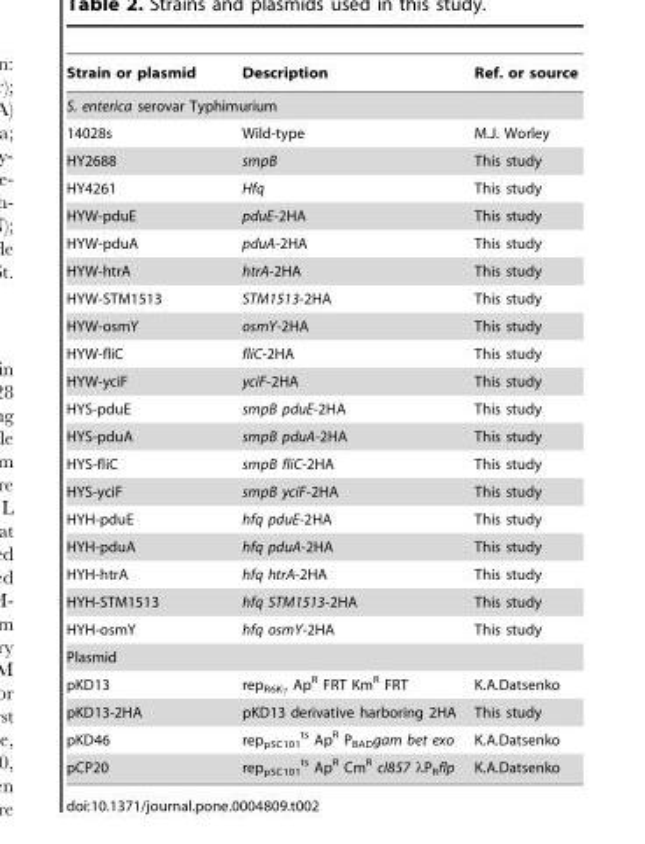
<table><thead><tr><td>Strain or plasmid</td><td>Description</td><td>Ref. or source</td></tr></thead><tbody><tr><td colspan="3">S. enterica serovar Typhimurium</td></tr><tr><td>14028s</td><td>Wild-type</td><td>M.J. Worley</td></tr><tr><td>HY2688</td><td>smpB</td><td>This study</td></tr><tr><td>HY4261</td><td>Hfq</td><td>This study</td></tr><tr><td>HYW-pduE</td><td>pduE-2HA</td><td>This study</td></tr><tr><td>HYW-pduA</td><td>pduA-2HA</td><td>This study</td></tr><tr><td>HYW-htrA</td><td>htrA-2HA</td><td>This study</td></tr><tr><td>HYW-STM1513</td><td>STM1513-2HA</td><td>This study</td></tr><tr><td>HYW-osmY</td><td>osmY-2HA</td><td>This study</td></tr><tr><td>HYW-fliC</td><td>fliC-2HA</td><td>This study</td></tr><tr><td>HYW-yciF</td><td>yciF-2HA</td><td>This study</td></tr><tr><td>HYS-pduE</td><td>smpB pduE-2HA</td><td>This study</td></tr><tr><td>HYS-pduA</td><td>smpB pduA-2HA</td><td>This study</td></tr><tr><td>HYS-fliC</td><td>smpB fliC-2HA</td><td>This study</td></tr><tr><td>HYS-yciF</td><td>smpB yciF-2HA</td><td>This study</td></tr><tr><td>HYH-pduE</td><td>hfq pduE-2HA</td><td>This study</td></tr><tr><td>HYH-pduA</td><td>hfq pduA-2HA</td><td>This study</td></tr><tr><td>HYH-htrA</td><td>hfq htrA-2HA</td><td>This study</td></tr><tr><td>HYH-STM1513</td><td>hfq STM1513-2HA</td><td>This study</td></tr><tr><td>HYH-osmY</td><td>hfq osmY-2HA</td><td>This study</td></tr><tr><td colspan="3">Plasmid</td></tr><tr><td>pKD13</td><td>rep<sub>R6Kγ</sub> Ap<sup>R</sup> FRT Km<sup>R</sup> FRT</td><td>K.A.Datsenko</td></tr><tr><td>pKD13-2HA</td><td>pKD13 derivative harboring 2HA</td><td>This study</td></tr><tr><td>pKD46</td><td>rep<sub>pSC101</sub> <sup>ts</sup> Ap<sup>R</sup> P<sub>BAD</sub>gam bet exo</td><td>K.A.Datsenko</td></tr><tr><td>pCP20</td><td>rep<sub>pSC101</sub> <sup>ts</sup> Ap<sup>R</sup> Cm<sup>R</sup> cI857 λP<sub>R</sub>flp</td><td>K.A.Datsenko</td></tr></tbody></table>